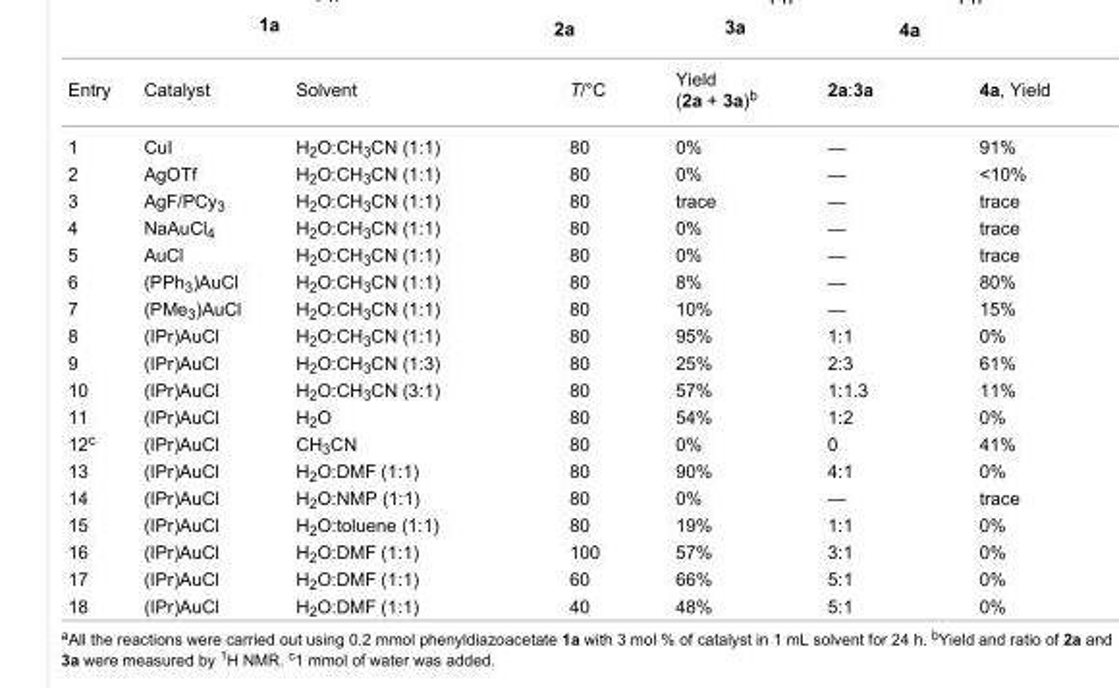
<table><tbody><tr><td>Entry</td><td>Catalyst</td><td>Solvent</td><td>T/°C</td><td>Yield (2a + 3a)<sup>b</sup></td><td>2a:3a</td><td>4a, Yield</td></tr><tr><td>1</td><td>CuI</td><td>H<sub>2</sub>O:CH<sub>3</sub>CN (1:1)</td><td>80</td><td>0%</td><td>—</td><td>91%</td></tr><tr><td>2</td><td>AgOTf</td><td>H<sub>2</sub>O:CH<sub>3</sub>CN (1:1)</td><td>80</td><td>0%</td><td>—</td><td>&lt;10%</td></tr><tr><td>3</td><td>AgF/PCy<sub>3</sub></td><td>H<sub>2</sub>O:CH<sub>3</sub>CN (1:1)</td><td>80</td><td>trace</td><td>—</td><td>trace</td></tr><tr><td>4</td><td>NaAuCl<sub>4</sub></td><td>H<sub>2</sub>O:CH<sub>3</sub>CN (1:1)</td><td>80</td><td>0%</td><td>—</td><td>trace</td></tr><tr><td>5</td><td>AuCl</td><td>H<sub>2</sub>O:CH<sub>3</sub>CN (1:1)</td><td>80</td><td>0%</td><td>—</td><td>trace</td></tr><tr><td>6</td><td>(PPh<sub>3</sub>)AuCl</td><td>H<sub>2</sub>O:CH<sub>3</sub>CN (1:1)</td><td>80</td><td>8%</td><td>—</td><td>80%</td></tr><tr><td>7</td><td>(PMe<sub>3</sub>)AuCl</td><td>H<sub>2</sub>O:CH<sub>3</sub>CN (1:1)</td><td>80</td><td>10%</td><td>—</td><td>15%</td></tr><tr><td>8</td><td>(IPr)AuCl</td><td>H<sub>2</sub>O:CH<sub>3</sub>CN (1:1)</td><td>80</td><td>95%</td><td>1:1</td><td>0%</td></tr><tr><td>9</td><td>(IPr)AuCl</td><td>H<sub>2</sub>O:CH<sub>3</sub>CN (1:3)</td><td>80</td><td>25%</td><td>2:3</td><td>61%</td></tr><tr><td>10</td><td>(IPr)AuCl</td><td>H<sub>2</sub>O:CH<sub>3</sub>CN (3:1)</td><td>80</td><td>57%</td><td>1:1.3</td><td>11%</td></tr><tr><td>11</td><td>(IPr)AuCl</td><td>H<sub>2</sub>O</td><td>80</td><td>54%</td><td>1:2</td><td>0%</td></tr><tr><td>12<sup>c</sup></td><td>(IPr)AuCl</td><td>CH<sub>3</sub>CN</td><td>80</td><td>0%</td><td>0</td><td>41%</td></tr><tr><td>13</td><td>(IPr)AuCl</td><td>H<sub>2</sub>O:DMF (1:1)</td><td>80</td><td>90%</td><td>4:1</td><td>0%</td></tr><tr><td>14</td><td>(IPr)AuCl</td><td>H<sub>2</sub>O:NMP (1:1)</td><td>80</td><td>0%</td><td>—</td><td>trace</td></tr><tr><td>15</td><td>(IPr)AuCl</td><td>H<sub>2</sub>O:toluene (1:1)</td><td>80</td><td>19%</td><td>1:1</td><td>0%</td></tr><tr><td>16</td><td>(IPr)AuCl</td><td>H<sub>2</sub>O:DMF (1:1)</td><td>100</td><td>57%</td><td>3:1</td><td>0%</td></tr><tr><td>17</td><td>(IPr)AuCl</td><td>H<sub>2</sub>O:DMF (1:1)</td><td>60</td><td>66%</td><td>5:1</td><td>0%</td></tr><tr><td>18</td><td>(IPr)AuCl</td><td>H<sub>2</sub>O:DMF (1:1)</td><td>40</td><td>48%</td><td>5:1</td><td>0%</td></tr></tbody></table>